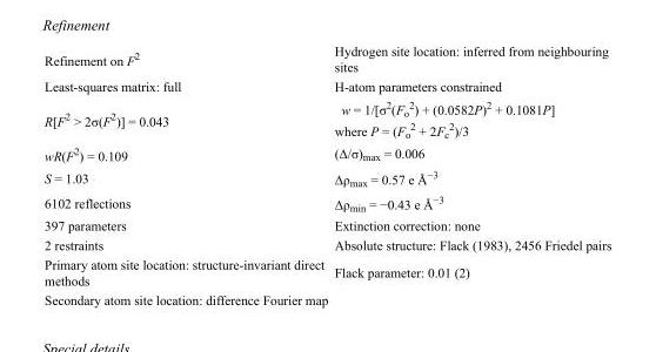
<table><tbody><tr><td>Refinement on F<sup>2</sup></td><td>Hydrogen site location: inferred from neighbouring sites</td></tr><tr><td>Least-squares matrix: full</td><td>H-atom parameters constrained</td></tr><tr><td>R[F<sup>2</sup> &gt; 2σ(F<sup>2</sup>)] = 0.043</td><td>w = 1/[σ<sup>2</sup>(F<sub>o</sub> <sup>2</sup>) + (0.0582P)<sup>2</sup> + 0.1081P] where P = (F<sub>o</sub> <sup>2</sup> + 2F<sub>c</sub> <sup>2</sup>)/3</td></tr><tr><td>wR(F<sup>2</sup>) = 0.109</td><td>(Δ/σ)<sub>max</sub> = 0.006</td></tr><tr><td>S = 1.03</td><td>Δρ<sub>max</sub> = 0.57 e Å<sup>−3</sup></td></tr><tr><td>6102 reflections</td><td>Δρ<sub>min</sub> = −0.43 e Å<sup>−3</sup></td></tr><tr><td>397 parameters</td><td>Extinction correction: none</td></tr><tr><td>2 restraints</td><td>Absolute structure: Flack (1983), 2456 Friedel pairs</td></tr><tr><td>Primary atom site location: structure-invariant direct methods</td><td>Flack parameter: 0.01 (2)</td></tr><tr><td>Secondary atom site location: difference Fourier map</td><td></td></tr></tbody></table>